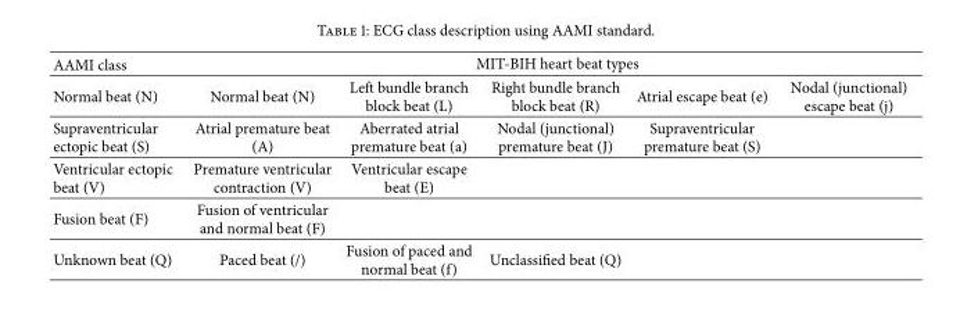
<table><thead><tr><td rowspan="2">AAMI class Normal beat (N)</td><td colspan="5">MIT-BIH heart beat types</td></tr><tr><td>Normal beat (N)</td><td>Left bundle branch block beat (L)</td><td>Right bundle branch block beat (R)</td><td>Atrial escape beat (e)</td><td>Nodal (junctional) escape beat (j)</td></tr></thead><tbody><tr><td>Supraventricular ectopic beat (S)</td><td>Atrial premature beat (A)</td><td>Aberrated atrial premature beat (a)</td><td>Nodal (junctional) premature beat (J)</td><td>Supraventricular premature beat (S)</td><td></td></tr><tr><td>Ventricular ectopic beat (V)</td><td>Premature ventricular contraction (V)</td><td>Ventricular escape beat (E)</td><td></td><td></td><td></td></tr><tr><td>Fusion beat (F)</td><td>Fusion of ventricular and normal beat (F)</td><td></td><td></td><td></td><td></td></tr><tr><td>Unknown beat (Q)</td><td>Paced beat (/)</td><td>Fusion of paced and normal beat (f)</td><td>Unclassified beat (Q)</td><td></td><td></td></tr></tbody></table>